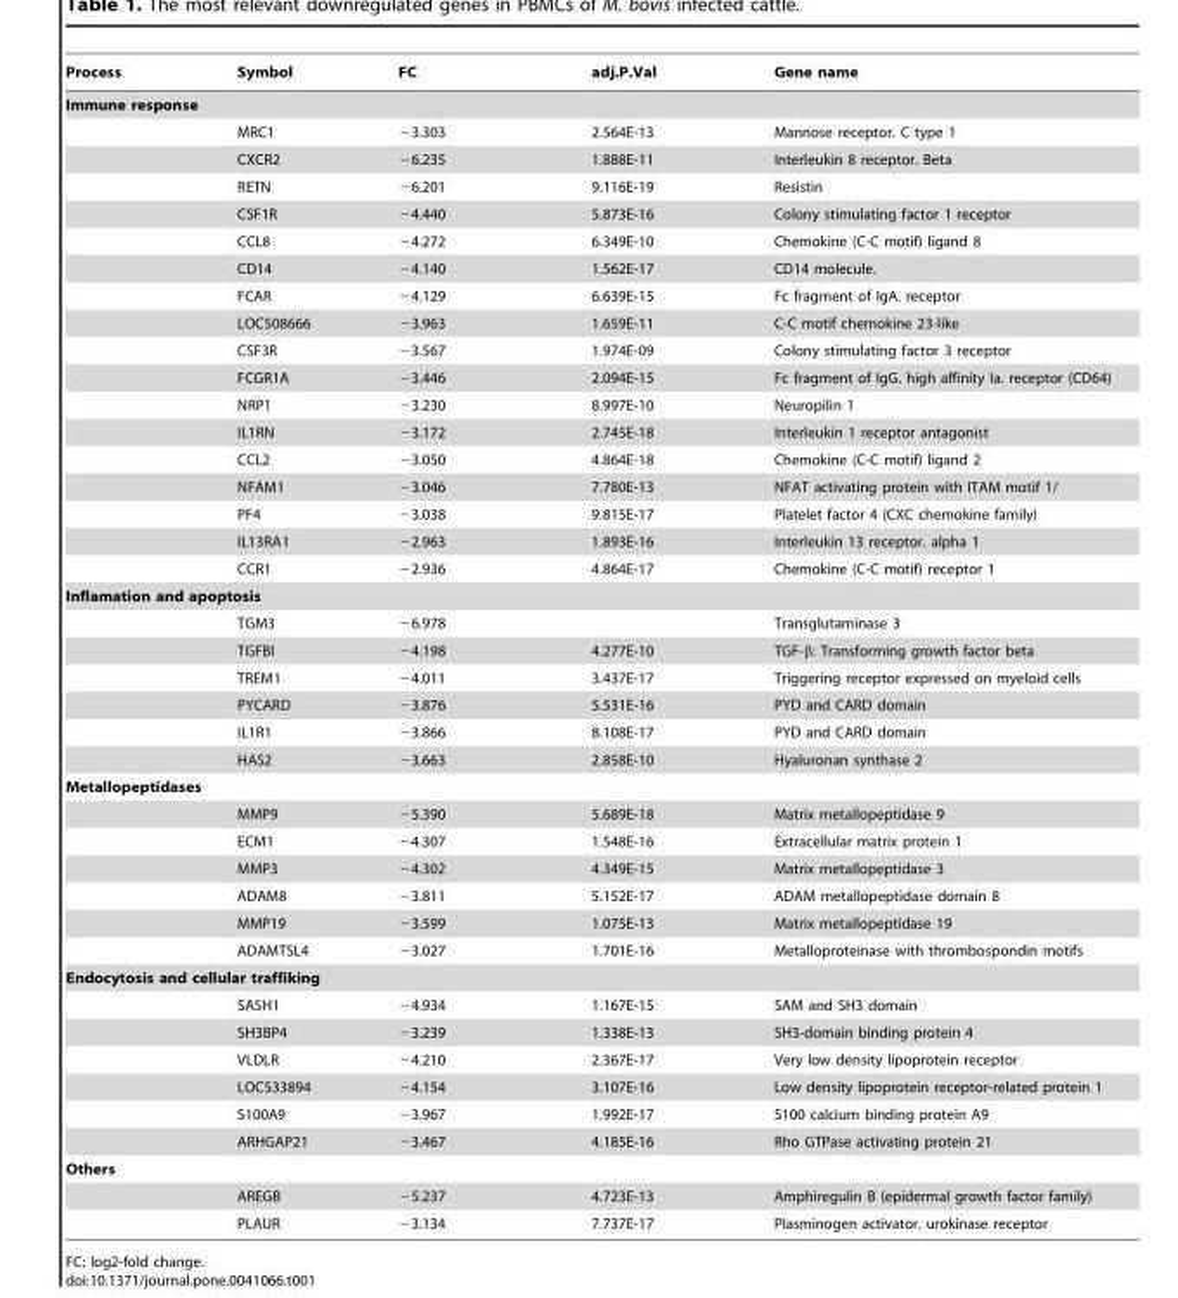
<table><thead><tr><td>Process</td><td>Symbol</td><td>FC</td><td>adj.P.Val</td><td>Gene name</td></tr></thead><tbody><tr><td colspan="5">Immune response</td></tr><tr><td></td><td>MRC1</td><td>−3.303</td><td>2.564E-13</td><td>Mannose receptor. C type 1</td></tr><tr><td></td><td>CXCR2</td><td>−6.235</td><td>1.888E-11</td><td>Interleukin 8 receptor. Beta</td></tr><tr><td></td><td>RETN</td><td>−6.201</td><td>9.116E-19</td><td>Resistin</td></tr><tr><td></td><td>CSF1R</td><td>−4.440</td><td>5.873E-16</td><td>Colony stimulating factor 1 receptor</td></tr><tr><td></td><td>CCL8</td><td>−4.272</td><td>6.349E-10</td><td>Chemokine (C-C motif) ligand 8</td></tr><tr><td></td><td>CD14</td><td>−4.140</td><td>1.562E-17</td><td>CD14 molecule.</td></tr><tr><td></td><td>FCAR</td><td>−4.129</td><td>6.639E-15</td><td>Fc fragment of IgA. receptor</td></tr><tr><td></td><td>LOC508666</td><td>−3.963</td><td>1.659E-11</td><td>C-C motif chemokine 23-like</td></tr><tr><td></td><td>CSF3R</td><td>−3.567</td><td>1.974E-09</td><td>Colony stimulating factor 3 receptor</td></tr><tr><td></td><td>FCGR1A</td><td>−3.446</td><td>2.094E-15</td><td>Fc fragment of IgG. high affinity Ia. receptor (CD64)</td></tr><tr><td></td><td>NRP1</td><td>−3.230</td><td>8.997E-10</td><td>Neuropilin 1</td></tr><tr><td></td><td>IL1RN</td><td>−3.172</td><td>2.745E-18</td><td>Interleukin 1 receptor antagonist</td></tr><tr><td></td><td>CCL2</td><td>−3.050</td><td>4.864E-18</td><td>Chemokine (C-C motif) ligand 2</td></tr><tr><td></td><td>NFAM1</td><td>−3.046</td><td>7.780E-13</td><td>NFAT activating protein with ITAM motif 1/</td></tr><tr><td></td><td>PF4</td><td>−3.038</td><td>9.815E-17</td><td>Platelet factor 4 (CXC chemokine family)</td></tr><tr><td></td><td>IL13RA1</td><td>−2.963</td><td>1.893E-16</td><td>Interleukin 13 receptor. alpha 1</td></tr><tr><td></td><td>CCR1</td><td>−2.936</td><td>4.864E-17</td><td>Chemokine (C-C motif) receptor 1</td></tr><tr><td colspan="5">Inflamation and apoptosis</td></tr><tr><td></td><td>TGM3</td><td>−6.978</td><td></td><td>Transglutaminase 3</td></tr><tr><td></td><td>TGFBI</td><td>−4.198</td><td>4.277E-10</td><td>TGF-β: Transforming growth factor beta</td></tr><tr><td></td><td>TREM1</td><td>−4.011</td><td>3.437E-17</td><td>Triggering receptor expressed on myeloid cells</td></tr><tr><td></td><td>PYCARD</td><td>−3.876</td><td>5.531E-16</td><td>PYD and CARD domain</td></tr><tr><td></td><td>IL1R1</td><td>−3.866</td><td>8.108E-17</td><td>PYD and CARD domain</td></tr><tr><td></td><td>HAS2</td><td>−3.663</td><td>2.858E-10</td><td>Hyaluronan synthase 2</td></tr><tr><td colspan="5">Metallopeptidases</td></tr><tr><td></td><td>MMP9</td><td>−5.390</td><td>5.689E-18</td><td>Matrix metallopeptidase 9</td></tr><tr><td></td><td>ECM1</td><td>−4.307</td><td>1.548E-16</td><td>Extracellular matrix protein 1</td></tr><tr><td></td><td>MMP3</td><td>−4.302</td><td>4.349E-15</td><td>Matrix metallopeptidase 3</td></tr><tr><td></td><td>ADAM8</td><td>−3.811</td><td>5.152E-17</td><td>ADAM metallopeptidase domain 8</td></tr><tr><td></td><td>MMP19</td><td>−3.599</td><td>1.075E-13</td><td>Matrix metallopeptidase 19</td></tr><tr><td></td><td>ADAMTSL4</td><td>−3.027</td><td>1.701E-16</td><td>Metalloproteinase with thrombospondin motifs</td></tr><tr><td colspan="5">Endocytosis and cellular traffiking</td></tr><tr><td></td><td>SASH1</td><td>−4.934</td><td>1.167E-15</td><td>SAM and SH3 domain</td></tr><tr><td></td><td>SH3BP4</td><td>−3.239</td><td>1.338E-13</td><td>SH3-domain binding protein 4</td></tr><tr><td></td><td>VLDLR</td><td>−4.210</td><td>2.367E-17</td><td>Very low density lipoprotein receptor</td></tr><tr><td></td><td>LOC533894</td><td>−4.154</td><td>3.107E-16</td><td>Low density lipoprotein receptor-related protein 1</td></tr><tr><td></td><td>S100A9</td><td>−3.967</td><td>1.992E-17</td><td>S100 calcium binding protein A9</td></tr><tr><td></td><td>ARHGAP21</td><td>−3.467</td><td>4.185E-16</td><td>Rho GTPase activating protein 21</td></tr><tr><td colspan="5">Others</td></tr><tr><td></td><td>AREGB</td><td>−5.237</td><td>4.723E-13</td><td>Amphiregulin B (epidermal growth factor family)</td></tr><tr><td></td><td>PLAUR</td><td>−3.134</td><td>7.737E-17</td><td>Plasminogen activator. urokinase receptor</td></tr></tbody></table>